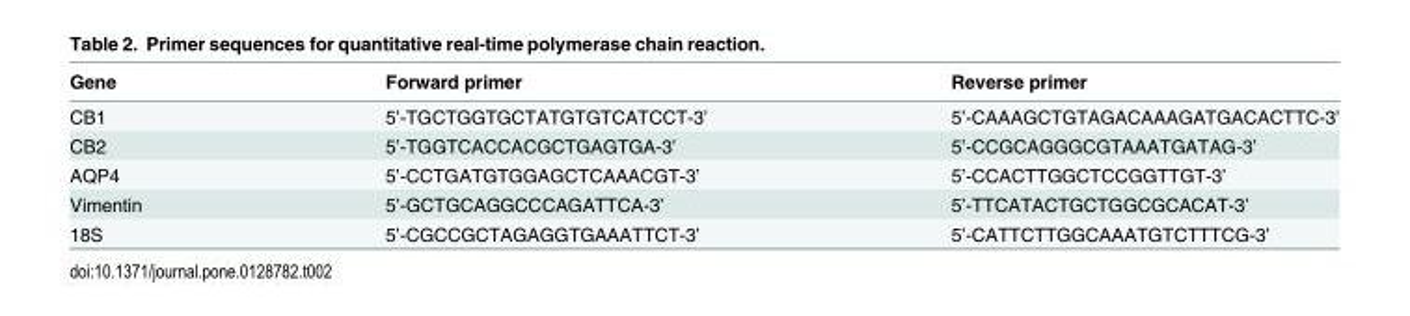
<table><thead><tr><td>Gene</td><td>Forward primer</td><td>Reverse primer</td></tr></thead><tbody><tr><td>CB1</td><td>5’-TGCTGGTGCTATGTGTCATCCT-3’</td><td>5’-CAAAGCTGTAGACAAAGATGACACTTC-3’</td></tr><tr><td>CB2</td><td>5’-TGGTCACCACGCTGAGTGA-3’</td><td>5’-CCGCAGGGCGTAAATGATAG-3’</td></tr><tr><td>AQP4</td><td>5’-CCTGATGTGGAGCTCAAACGT-3’</td><td>5’-CCACTTGGCTCCGGTTGT-3’</td></tr><tr><td>Vimentin</td><td>5’-GCTGCAGGCCCAGATTCA-3’</td><td>5’-TTCATACTGCTGGCGCACAT-3’</td></tr><tr><td>18S</td><td>5’-CGCCGCTAGAGGTGAAATTCT-3’</td><td>5’-CATTCTTGGCAAATGTCTTTCG-3’</td></tr></tbody></table>